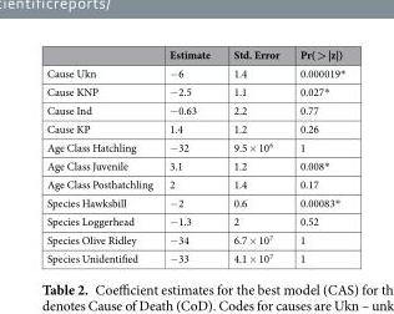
<table><thead><tr><td></td><td>Estimate</td><td>Std. Error</td><td>Pr( &gt; |z|)</td></tr></thead><tbody><tr><td>Cause Ukn</td><td>−6</td><td>1.4</td><td>0.000019*</td></tr><tr><td>Cause KNP</td><td>−2.5</td><td>1.1</td><td>0.027*</td></tr><tr><td>Cause Ind</td><td>−0.63</td><td>2.2</td><td>0.77</td></tr><tr><td>Cause KP</td><td>1.4</td><td>1.2</td><td>0.26</td></tr><tr><td>Age Class Hatchling</td><td>−32</td><td>9.5 × 10<sup>6</sup></td><td>1</td></tr><tr><td>Age Class Juvenile</td><td>3.1</td><td>1.2</td><td>0.008*</td></tr><tr><td>Age Class Posthatchling</td><td>2</td><td>1.4</td><td>0.17</td></tr><tr><td>Species Hawksbill</td><td>−2</td><td>0.6</td><td>0.00083*</td></tr><tr><td>Species Loggerhead</td><td>−1.3</td><td>2</td><td>0.52</td></tr><tr><td>Species Olive Ridley</td><td>−34</td><td>6.7 × 10<sup>7</sup></td><td>1</td></tr><tr><td>Species Unidentified</td><td>−33</td><td>4.1 × 10<sup>7</sup></td><td>1</td></tr></tbody></table>